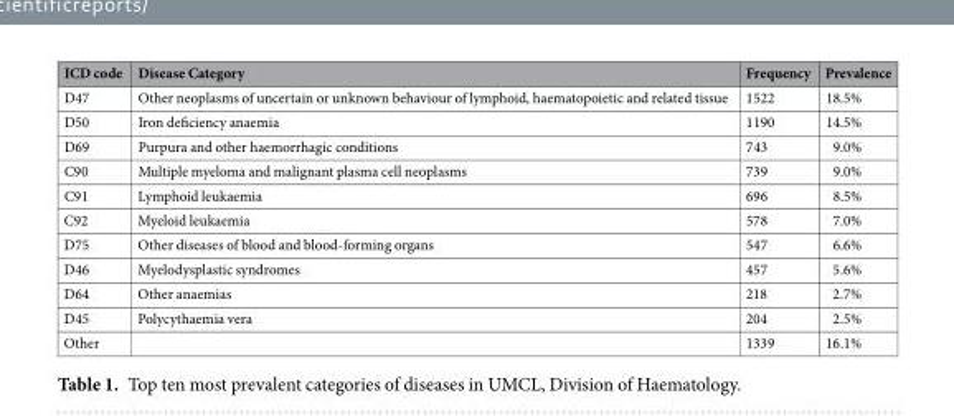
<table><thead><tr><td>ICD code</td><td>Disease Category</td><td>Frequency</td><td>Prevalence</td></tr></thead><tbody><tr><td>D47</td><td>Other neoplasms of uncertain or unknown behaviour of lymphoid, haematopoietic and related tissue</td><td>1522</td><td>18.5%</td></tr><tr><td>D50</td><td>Iron deficiency anaemia</td><td>1190</td><td>14.5%</td></tr><tr><td>D69</td><td>Purpura and other haemorrhagic conditions</td><td>743</td><td>9.0%</td></tr><tr><td>C90</td><td>Multiple myeloma and malignant plasma cell neoplasms</td><td>739</td><td>9.0%</td></tr><tr><td>C91</td><td>Lymphoid leukaemia</td><td>696</td><td>8.5%</td></tr><tr><td>C92</td><td>Myeloid leukaemia</td><td>578</td><td>7.0%</td></tr><tr><td>D75</td><td>Other diseases of blood and blood-forming organs</td><td>547</td><td>6.6%</td></tr><tr><td>D46</td><td>Myelodysplastic syndromes</td><td>457</td><td>5.6%</td></tr><tr><td>D64</td><td>Other anaemias</td><td>218</td><td>2.7%</td></tr><tr><td>D45</td><td>Polycythaemia vera</td><td>204</td><td>2.5%</td></tr><tr><td>Other</td><td></td><td>1339</td><td>16.1%</td></tr></tbody></table>